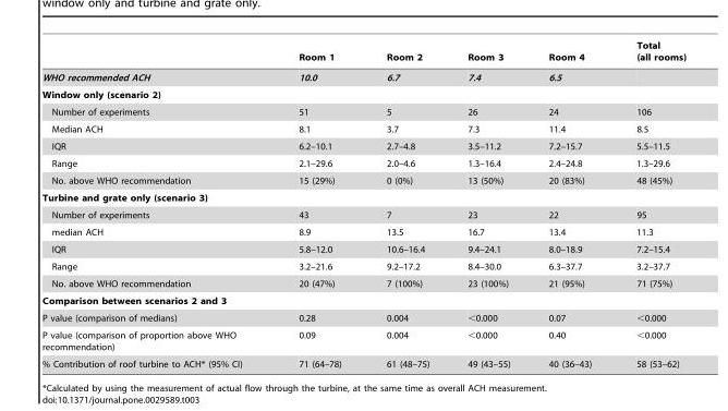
<table><thead><tr><td></td><td>Room 1</td><td>Room 2</td><td>Room 3</td><td>Room 4</td><td>Total (all rooms)</td></tr></thead><tbody><tr><td>WHO recommended ACH</td><td>10.0</td><td>6.7</td><td>7.4</td><td>6.5</td><td></td></tr><tr><td colspan="6">Window only (scenario 2)</td></tr><tr><td>Number of experiments</td><td>51</td><td>5</td><td>26</td><td>24</td><td>106</td></tr><tr><td>Median ACH</td><td>8.1</td><td>3.7</td><td>7.3</td><td>11.4</td><td>8.5</td></tr><tr><td>IQR</td><td>6.2–10.1</td><td>2.7–4.8</td><td>3.5–11.2</td><td>7.2–15.7</td><td>5.5–11.5</td></tr><tr><td>Range</td><td>2.1–29.6</td><td>2.0–4.6</td><td>1.3–16.4</td><td>2.4–24.8</td><td>1.3–29.6</td></tr><tr><td>No. above WHO recommendation</td><td>15 (29%)</td><td>0 (0%)</td><td>13 (50%)</td><td>20 (83%)</td><td>48 (45%)</td></tr><tr><td colspan="6">Turbine and grate only (scenario 3)</td></tr><tr><td>Number of experiments</td><td>43</td><td>7</td><td>23</td><td>22</td><td>95</td></tr><tr><td>median ACH</td><td>8.9</td><td>13.5</td><td>16.7</td><td>13.4</td><td>11.3</td></tr><tr><td>IQR</td><td>5.8–12.0</td><td>10.6–16.4</td><td>9.4–24.1</td><td>8.0–18.9</td><td>7.2–15.4</td></tr><tr><td>Range</td><td>3.2–21.6</td><td>9.2–17.2</td><td>8.4–30.0</td><td>6.3–37.7</td><td>3.2–37.7</td></tr><tr><td>No. above WHO recommendation</td><td>20 (47%)</td><td>7 (100%)</td><td>23 (100%)</td><td>21 (95%)</td><td>71 (75%)</td></tr><tr><td colspan="6">Comparison between scenarios 2 and 3</td></tr><tr><td>P value (comparison of medians)</td><td>0.28</td><td>0.004</td><td>&lt;0.000</td><td>0.07</td><td>&lt;0.000</td></tr><tr><td>P value (comparison of proportion above WHO recommendation)</td><td>0.09</td><td>0.004</td><td>&lt;0.000</td><td>0.40</td><td>&lt;0.000</td></tr><tr><td>% Contribution of roof turbine to ACH* (95% CI)</td><td>71 (64–78)</td><td>61 (48–75)</td><td>49 (43–55)</td><td>40 (36–43)</td><td>58 (53–62)</td></tr></tbody></table>